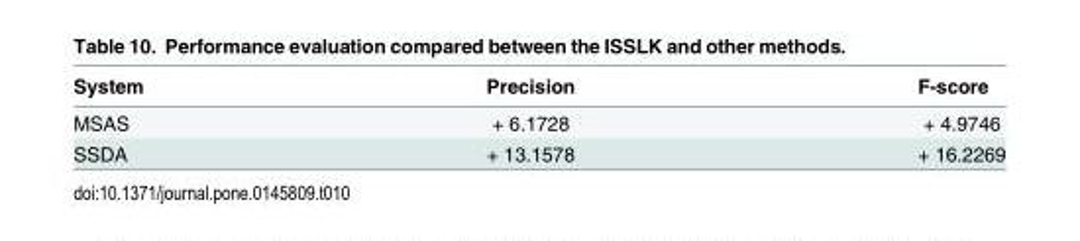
<table><thead><tr><td>System</td><td>Precision</td><td>F-score</td></tr></thead><tbody><tr><td>MSAS</td><td>+ 6.1728</td><td>+ 4.9746</td></tr><tr><td>SSDA</td><td>+ 13.1578</td><td>+ 16.2269</td></tr></tbody></table>